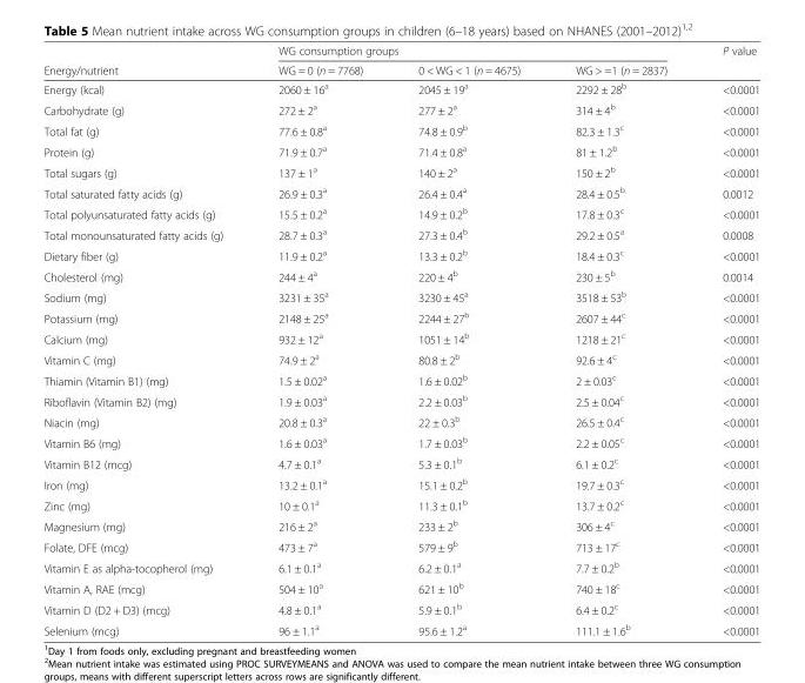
<table><thead><tr><td rowspan="2">Energy/nutrient</td><td colspan="3">WG consumption groups</td><td rowspan="2">P value</td></tr><tr><td>WG = 0 (n = 7768)</td><td>0 &lt; WG &lt; 1 (n = 4675)</td><td>WG &gt; =1 (n = 2837)</td></tr></thead><tbody><tr><td>Energy (kcal)</td><td>2060 ± 16<sup>a</sup></td><td>2045 ± 19<sup>a</sup></td><td>2292 ± 28<sup>b</sup></td><td>&lt;0.0001</td></tr><tr><td>Carbohydrate (g)</td><td>272 ± 2<sup>a</sup></td><td>277 ± 2<sup>a</sup></td><td>314 ± 4<sup>b</sup></td><td>&lt;0.0001</td></tr><tr><td>Total fat (g)</td><td>77.6 ± 0.8<sup>a</sup></td><td>74.8 ± 0.9<sup>b</sup></td><td>82.3 ± 1.3<sup>c</sup></td><td>&lt;0.0001</td></tr><tr><td>Protein (g)</td><td>71.9 ± 0.7<sup>a</sup></td><td>71.4 ± 0.8<sup>a</sup></td><td>81 ± 1.2<sup>b</sup></td><td>&lt;0.0001</td></tr><tr><td>Total sugars (g)</td><td>137 ± 1<sup>a</sup></td><td>140 ± 2<sup>a</sup></td><td>150 ± 2<sup>b</sup></td><td>&lt;0.0001</td></tr><tr><td>Total saturated fatty acids (g)</td><td>26.9 ± 0.3<sup>a</sup></td><td>26.4 ± 0.4<sup>a</sup></td><td>28.4 ± 0.5<sup>b</sup></td><td>0.0012</td></tr><tr><td>Total polyunsaturated fatty acids (g)</td><td>15.5 ± 0.2<sup>a</sup></td><td>14.9 ± 0.2<sup>b</sup></td><td>17.8 ± 0.3<sup>c</sup></td><td>&lt;0.0001</td></tr><tr><td>Total monounsaturated fatty acids (g)</td><td>28.7 ± 0.3<sup>a</sup></td><td>27.3 ± 0.4<sup>b</sup></td><td>29.2 ± 0.5<sup>a</sup></td><td>0.0008</td></tr><tr><td>Dietary fiber (g)</td><td>11.9 ± 0.2<sup>a</sup></td><td>13.3 ± 0.2<sup>b</sup></td><td>18.4 ± 0.3<sup>c</sup></td><td>&lt;0.0001</td></tr><tr><td>Cholesterol (mg)</td><td>244 ± 4<sup>a</sup></td><td>220 ± 4<sup>b</sup></td><td>230 ± 5<sup>b</sup></td><td>0.0014</td></tr><tr><td>Sodium (mg)</td><td>3231 ± 35<sup>a</sup></td><td>3230 ± 45<sup>a</sup></td><td>3518 ± 53<sup>b</sup></td><td>&lt;0.0001</td></tr><tr><td>Potassium (mg)</td><td>2148 ± 25<sup>a</sup></td><td>2244 ± 27<sup>b</sup></td><td>2607 ± 44<sup>c</sup></td><td>&lt;0.0001</td></tr><tr><td>Calcium (mg)</td><td>932 ± 12<sup>a</sup></td><td>1051 ± 14<sup>b</sup></td><td>1218 ± 21<sup>c</sup></td><td>&lt;0.0001</td></tr><tr><td>Vitamin C (mg)</td><td>74.9 ± 2<sup>a</sup></td><td>80.8 ± 2<sup>b</sup></td><td>92.6 ± 4<sup>c</sup></td><td>&lt;0.0001</td></tr><tr><td>Thiamin (Vitamin B1) (mg)</td><td>1.5 ± 0.02<sup>a</sup></td><td>1.6 ± 0.02<sup>b</sup></td><td>2 ± 0.03<sup>c</sup></td><td>&lt;0.0001</td></tr><tr><td>Riboflavin (Vitamin B2) (mg)</td><td>1.9 ± 0.03<sup>a</sup></td><td>2.2 ± 0.03<sup>b</sup></td><td>2.5 ± 0.04<sup>c</sup></td><td>&lt;0.0001</td></tr><tr><td>Niacin (mg)</td><td>20.8 ± 0.3<sup>a</sup></td><td>22 ± 0.3<sup>b</sup></td><td>26.5 ± 0.4<sup>c</sup></td><td>&lt;0.0001</td></tr><tr><td>Vitamin B6 (mg)</td><td>1.6 ± 0.03<sup>a</sup></td><td>1.7 ± 0.03<sup>b</sup></td><td>2.2 ± 0.05<sup>c</sup></td><td>&lt;0.0001</td></tr><tr><td>Vitamin B12 (mcg)</td><td>4.7 ± 0.1<sup>a</sup></td><td>5.3 ± 0.1<sup>b</sup></td><td>6.1 ± 0.2<sup>c</sup></td><td>&lt;0.0001</td></tr><tr><td>Iron (mg)</td><td>13.2 ± 0.1<sup>a</sup></td><td>15.1 ± 0.2<sup>b</sup></td><td>19.7 ± 0.3<sup>c</sup></td><td>&lt;0.0001</td></tr><tr><td>Zinc (mg)</td><td>10 ± 0.1<sup>a</sup></td><td>11.3 ± 0.1<sup>b</sup></td><td>13.7 ± 0.2<sup>c</sup></td><td>&lt;0.0001</td></tr><tr><td>Magnesium (mg)</td><td>216 ± 2<sup>a</sup></td><td>233 ± 2<sup>b</sup></td><td>306 ± 4<sup>c</sup></td><td>&lt;0.0001</td></tr><tr><td>Folate, DFE (mcg)</td><td>473 ± 7<sup>a</sup></td><td>579 ± 9<sup>b</sup></td><td>713 ± 17<sup>c</sup></td><td>&lt;0.0001</td></tr><tr><td>Vitamin E as alpha-tocopherol (mg)</td><td>6.1 ± 0.1<sup>a</sup></td><td>6.2 ± 0.1<sup>a</sup></td><td>7.7 ± 0.2<sup>b</sup></td><td>&lt;0.0001</td></tr><tr><td>Vitamin A, RAE (mcg)</td><td>504 ± 10<sup>a</sup></td><td>621 ± 10<sup>b</sup></td><td>740 ± 18<sup>c</sup></td><td>&lt;0.0001</td></tr><tr><td>Vitamin D (D2 + D3) (mcg)</td><td>4.8 ± 0.1<sup>a</sup></td><td>5.9 ± 0.1<sup>b</sup></td><td>6.4 ± 0.2<sup>c</sup></td><td>&lt;0.0001</td></tr><tr><td>Selenium (mcg)</td><td>96 ± 1.1<sup>a</sup></td><td>95.6 ± 1.2<sup>a</sup></td><td>111.1 ± 1.6<sup>b</sup></td><td>&lt;0.0001</td></tr></tbody></table>